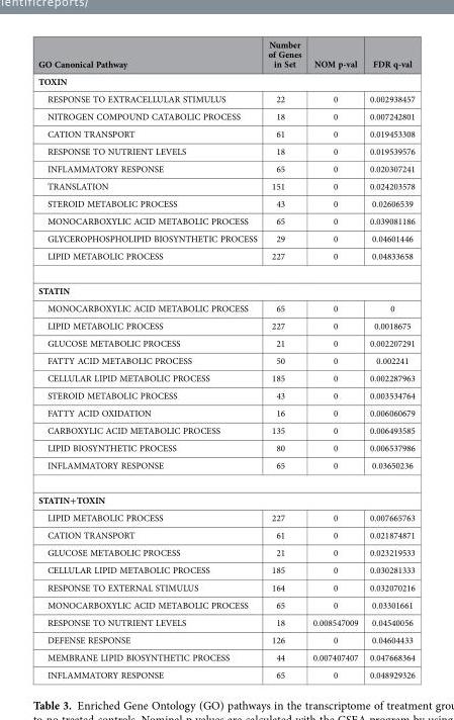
<table><thead><tr><td>GO Canonical Pathway</td><td>Number of Genes in Set</td><td>NOM p-val</td><td>FDR q-val</td></tr></thead><tbody><tr><td colspan="4">TOXIN</td></tr><tr><td>RESPONSE TO EXTRACELLULAR STIMULUS</td><td>22</td><td>0</td><td>0.002938457</td></tr><tr><td>NITROGEN COMPOUND CATABOLIC PROCESS</td><td>18</td><td>0</td><td>0.007242801</td></tr><tr><td>CATION TRANSPORT</td><td>61</td><td>0</td><td>0.019453308</td></tr><tr><td>RESPONSE TO NUTRIENT LEVELS</td><td>18</td><td>0</td><td>0.019539576</td></tr><tr><td>INFLAMMATORY RESPONSE</td><td>65</td><td>0</td><td>0.020307241</td></tr><tr><td>TRANSLATION</td><td>151</td><td>0</td><td>0.024203578</td></tr><tr><td>STEROID METABOLIC PROCESS</td><td>43</td><td>0</td><td>0.02606539</td></tr><tr><td>MONOCARBOXYLIC ACID METABOLIC PROCESS</td><td>65</td><td>0</td><td>0.039081186</td></tr><tr><td>GLYCEROPHOSPHOLIPID BIOSYNTHETIC PROCESS</td><td>29</td><td>0</td><td>0.04601446</td></tr><tr><td>LIPID METABOLIC PROCESS</td><td>227</td><td>0</td><td>0.04833658</td></tr><tr><td colspan="4">STATIN</td></tr><tr><td>MONOCARBOXYLIC ACID METABOLIC PROCESS</td><td>65</td><td>0</td><td>0</td></tr><tr><td>LIPID METABOLIC PROCESS</td><td>227</td><td>0</td><td>0.0018675</td></tr><tr><td>GLUCOSE METABOLIC PROCESS</td><td>21</td><td>0</td><td>0.002207291</td></tr><tr><td>FATTY ACID METABOLIC PROCESS</td><td>50</td><td>0</td><td>0.002241</td></tr><tr><td>CELLULAR LIPID METABOLIC PROCESS</td><td>185</td><td>0</td><td>0.002287963</td></tr><tr><td>STEROID METABOLIC PROCESS</td><td>43</td><td>0</td><td>0.003534764</td></tr><tr><td>FATTY ACID OXIDATION</td><td>16</td><td>0</td><td>0.006060679</td></tr><tr><td>CARBOXYLIC ACID METABOLIC PROCESS</td><td>135</td><td>0</td><td>0.006493585</td></tr><tr><td>LIPID BIOSYNTHETIC PROCESS</td><td>80</td><td>0</td><td>0.006537986</td></tr><tr><td>INFLAMMATORY RESPONSE</td><td>65</td><td>0</td><td>0.03650236</td></tr><tr><td colspan="4">STATIN+TOXIN</td></tr><tr><td>LIPID METABOLIC PROCESS</td><td>227</td><td>0</td><td>0.007665763</td></tr><tr><td>CATION TRANSPORT</td><td>61</td><td>0</td><td>0.021874871</td></tr><tr><td>GLUCOSE METABOLIC PROCESS</td><td>21</td><td>0</td><td>0.023219533</td></tr><tr><td>CELLULAR LIPID METABOLIC PROCESS</td><td>185</td><td>0</td><td>0.030281333</td></tr><tr><td>RESPONSE TO EXTERNAL STIMULUS</td><td>164</td><td>0</td><td>0.032070216</td></tr><tr><td>MONOCARBOXYLIC ACID METABOLIC PROCESS</td><td>65</td><td>0</td><td>0.03301661</td></tr><tr><td>RESPONSE TO NUTRIENT LEVELS</td><td>18</td><td>0.008547009</td><td>0.04540056</td></tr><tr><td>DEFENSE RESPONSE</td><td>126</td><td>0</td><td>0.04604433</td></tr><tr><td>MEMBRANE LIPID BIOSYNTHETIC PROCESS</td><td>44</td><td>0.007407407</td><td>0.047668364</td></tr><tr><td>INFLAMMATORY RESPONSE</td><td>65</td><td>0</td><td>0.048929326</td></tr></tbody></table>